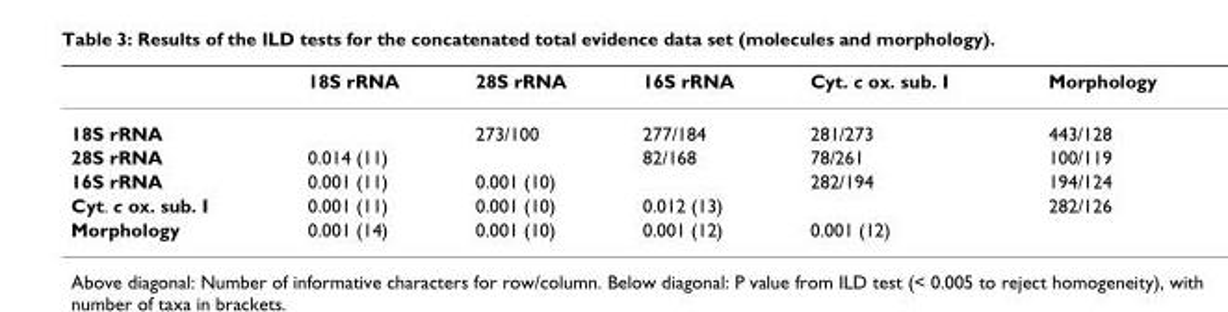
<table><thead><tr><td></td><td>18S rRNA</td><td>28S rRNA</td><td>16S rRNA</td><td>Cyt. c ox. sub. I</td><td>Morphology</td></tr></thead><tbody><tr><td>18S rRNA</td><td></td><td>273/100</td><td>277/184</td><td>281/273</td><td>443/128</td></tr><tr><td>28S rRNA</td><td>0.014 (11)</td><td></td><td>82/168</td><td>78/261</td><td>100/119</td></tr><tr><td>16S rRNA</td><td>0.001 (11)</td><td>0.001 (10)</td><td></td><td>282/194</td><td>194/124</td></tr><tr><td>Cyt. c ox. sub. I</td><td>0.001 (11)</td><td>0.001 (10)</td><td>0.012 (13)</td><td></td><td>282/126</td></tr><tr><td>Morphology</td><td>0.001 (14)</td><td>0.001 (10)</td><td>0.001 (12)</td><td>0.001 (12)</td><td></td></tr></tbody></table>